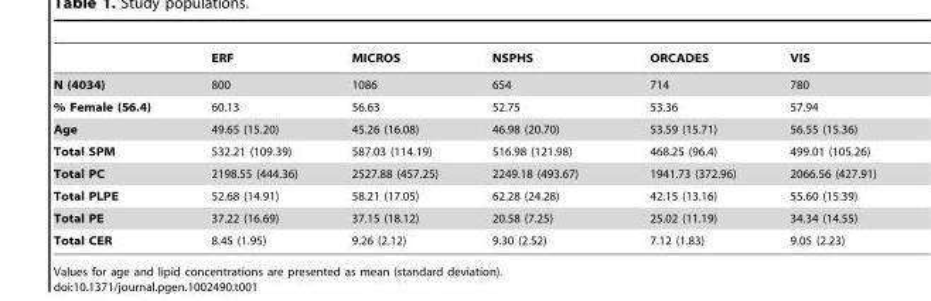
<table><thead><tr><td></td><td>ERF</td><td>MICROS</td><td>NSPHS</td><td>ORCADES</td><td>VIS</td></tr></thead><tbody><tr><td>N (4034)</td><td>800</td><td>1086</td><td>654</td><td>714</td><td>780</td></tr><tr><td>% Female (56.4)</td><td>60.13</td><td>56.63</td><td>52.75</td><td>53.36</td><td>57.94</td></tr><tr><td>Age</td><td>49.65 (15.20)</td><td>45.26 (16.08)</td><td>46.98 (20.70)</td><td>53.59 (15.71)</td><td>56.55 (15.36)</td></tr><tr><td>Total SPM</td><td>532.21 (109.39)</td><td>587.03 (114.19)</td><td>516.98 (121.98)</td><td>468.25 (96.4)</td><td>499.01 (105.26)</td></tr><tr><td>Total PC</td><td>2198.55 (444.36)</td><td>2527.88 (457.25)</td><td>2249.18 (493.67)</td><td>1941.73 (372.96)</td><td>2066.56 (427.91)</td></tr><tr><td>Total PLPE</td><td>52.68 (14.91)</td><td>58.21 (17.05)</td><td>62.28 (24.28)</td><td>42.15 (13.16)</td><td>55.60 (15.39)</td></tr><tr><td>Total PE</td><td>37.22 (16.69)</td><td>37.15 (18.12)</td><td>20.58 (7.25)</td><td>25.02 (11.19)</td><td>34.34 (14.55)</td></tr><tr><td>Total CER</td><td>8.45 (1.95)</td><td>9.26 (2.12)</td><td>9.30 (2.52)</td><td>7.12 (1.83)</td><td>9.05 (2.23)</td></tr></tbody></table>